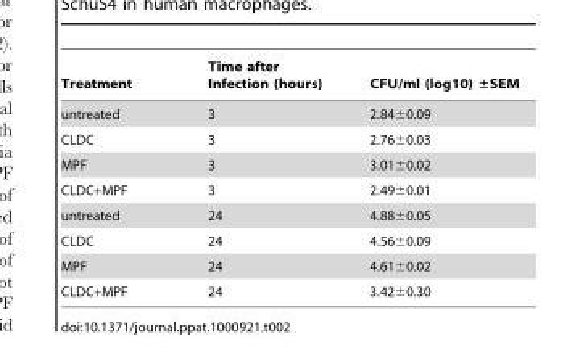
<table><thead><tr><td>Treatment</td><td>Time after Infection (hours)</td><td>CFU/ml (log10) ±SEM</td></tr></thead><tbody><tr><td>untreated</td><td>3</td><td>2.84±0.09</td></tr><tr><td>CLDC</td><td>3</td><td>2.76±0.03</td></tr><tr><td>MPF</td><td>3</td><td>3.01±0.02</td></tr><tr><td>CLDC+MPF</td><td>3</td><td>2.49±0.01</td></tr><tr><td>untreated</td><td>24</td><td>4.88±0.05</td></tr><tr><td>CLDC</td><td>24</td><td>4.56±0.09</td></tr><tr><td>MPF</td><td>24</td><td>4.61±0.02</td></tr><tr><td>CLDC+MPF</td><td>24</td><td>3.42±0.30</td></tr></tbody></table>